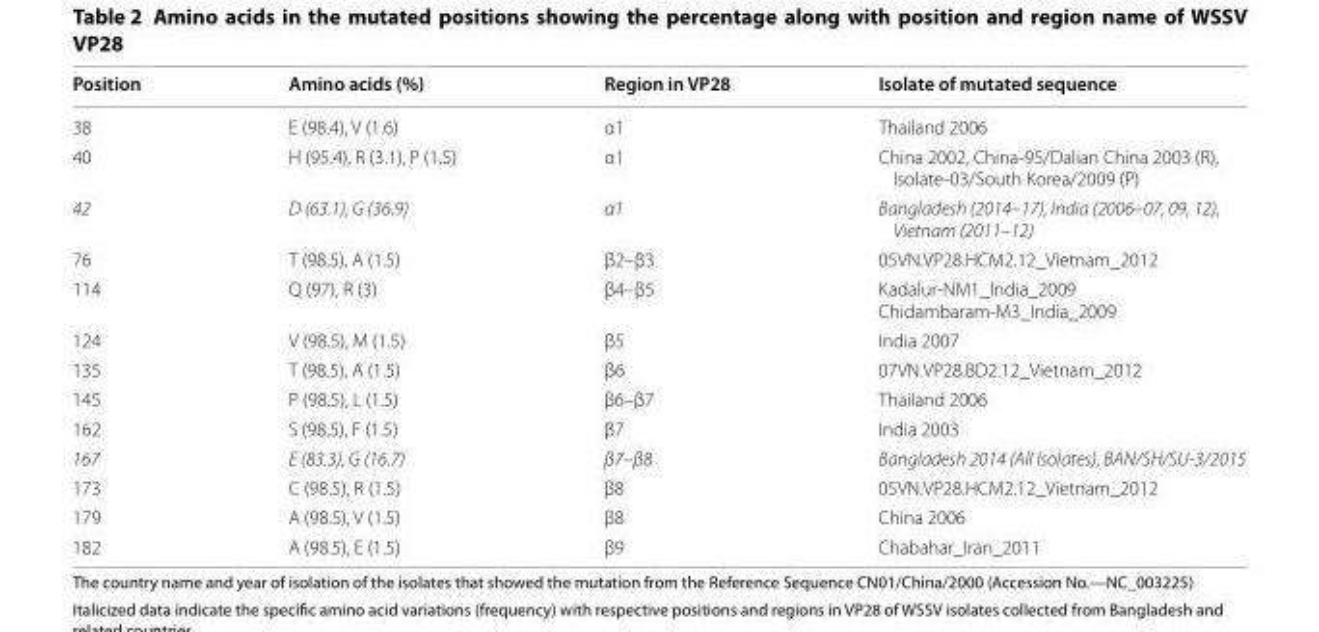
<table><thead><tr><td>Position</td><td>Amino acids (%)</td><td>Region in VP28</td><td>Isolate of mutated sequence</td></tr></thead><tbody><tr><td>38</td><td>E (98.4), V (1.6)</td><td>α1</td><td>Thailand 2006</td></tr><tr><td>40</td><td>H (95.4), R (3.1), P (1.5)</td><td>α1</td><td>China 2002, China‑95/Dalian China 2003 (R), Isolate‑03/South Korea/2009 (P)</td></tr><tr><td>42</td><td>D (63.1), G (36.9)</td><td>α1</td><td>Bangladesh (2014–17), India (2006–07, 09, 12), Vietnam (2011–12)</td></tr><tr><td>76</td><td>T (98.5), A (1.5)</td><td>β2–β3</td><td>05VN.VP28.HCM2.12_Vietnam_2012</td></tr><tr><td>114</td><td>Q (97), R (3)</td><td>β4–β5</td><td>Kadalur‑NM1_India_2009 Chidambaram‑M3_India_2009</td></tr><tr><td>124</td><td>V (98.5), M (1.5)</td><td>β5</td><td>India 2007</td></tr><tr><td>135</td><td>T (98.5), A (1.5)</td><td>β6</td><td>07VN.VP28.BD2.12_Vietnam_2012</td></tr><tr><td>145</td><td>P (98.5), L (1.5)</td><td>β6–β7</td><td>Thailand 2006</td></tr><tr><td>162</td><td>S (98.5), F (1.5)</td><td>β7</td><td>India 2003</td></tr><tr><td>167</td><td>E (83.3), G (16.7)</td><td>β7–β8</td><td>Bangladesh 2014 (All Isolates), BAN/SH/SU‑3/2015</td></tr><tr><td>173</td><td>C (98.5), R (1.5)</td><td>β8</td><td>05VN.VP28.HCM2.12_Vietnam_2012</td></tr><tr><td>179</td><td>A (98.5), V (1.5)</td><td>β8</td><td>China 2006</td></tr><tr><td>182</td><td>A (98.5), E (1.5)</td><td>β9</td><td>Chabahar_Iran_2011</td></tr></tbody></table>